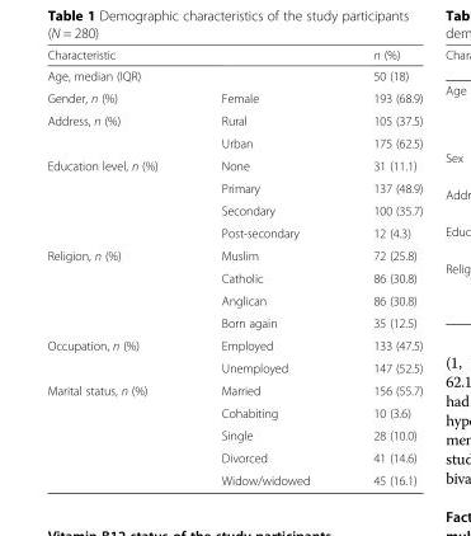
<table><thead><tr><td>Characteristic</td><td></td><td>n (%)</td></tr></thead><tbody><tr><td>Age, median (IQR)</td><td></td><td>50 (18)</td></tr><tr><td>Gender, n (%)</td><td>Female</td><td>193 (68.9)</td></tr><tr><td rowspan="2">Address, n (%)</td><td>Rural</td><td>105 (37.5)</td></tr><tr><td>Urban</td><td>175 (62.5)</td></tr><tr><td rowspan="4">Education level, n (%)</td><td>None</td><td>31 (11.1)</td></tr><tr><td>Primary</td><td>137 (48.9)</td></tr><tr><td>Secondary</td><td>100 (35.7)</td></tr><tr><td>Post-secondary</td><td>12 (4.3)</td></tr><tr><td rowspan="4">Religion, n (%)</td><td>Muslim</td><td>72 (25.8)</td></tr><tr><td>Catholic</td><td>86 (30.8)</td></tr><tr><td>Anglican</td><td>86 (30.8)</td></tr><tr><td>Born again</td><td>35 (12.5)</td></tr><tr><td rowspan="2">Occupation, n (%)</td><td>Employed</td><td>133 (47.5)</td></tr><tr><td>Unemployed</td><td>147 (52.5)</td></tr><tr><td rowspan="5">Marital status, n (%)</td><td>Married</td><td>156 (55.7)</td></tr><tr><td>Cohabiting</td><td>10 (3.6)</td></tr><tr><td>Single</td><td>28 (10.0)</td></tr><tr><td>Divorced</td><td>41 (14.6)</td></tr><tr><td>Widow/widowed</td><td>45 (16.1)</td></tr></tbody></table>